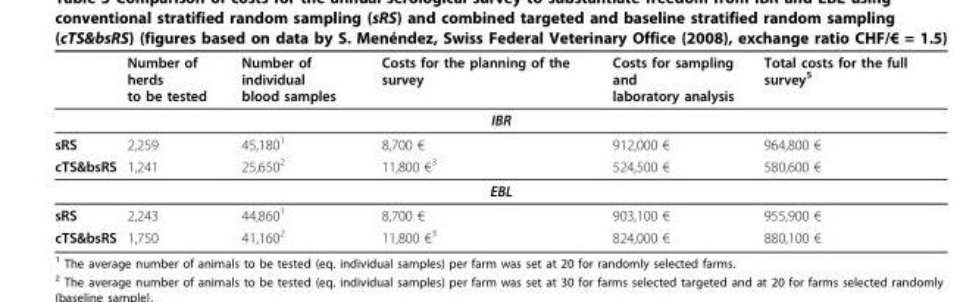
<table><thead><tr><td></td><td>Number of herds to be tested</td><td>Number of individual blood samples</td><td>Costs for the planning of the survey</td><td>Costs for sampling and laboratory analysis</td><td>Total costs for the full survey<sup>5</sup></td></tr></thead><tbody><tr><td colspan="6">IBR</td></tr><tr><td>sRS</td><td>2,259</td><td>45,180<sup>1</sup></td><td>8,700 €</td><td>912,000 €</td><td>964,800 €</td></tr><tr><td>cTS&amp;bsRS</td><td>1,241</td><td>25,650<sup>2</sup></td><td>11,800 €<sup>3</sup></td><td>524,500 €</td><td>580,600 €</td></tr><tr><td colspan="6">EBL</td></tr><tr><td>sRS</td><td>2,243</td><td>44,860<sup>1</sup></td><td>8,700 €</td><td>903,100 €</td><td>955,900 €</td></tr><tr><td>cTS&amp;bsRS</td><td>1,750</td><td>41,160<sup>2</sup></td><td>11,800 €<sup>3</sup></td><td>824,000 €</td><td>880,100 €</td></tr></tbody></table>